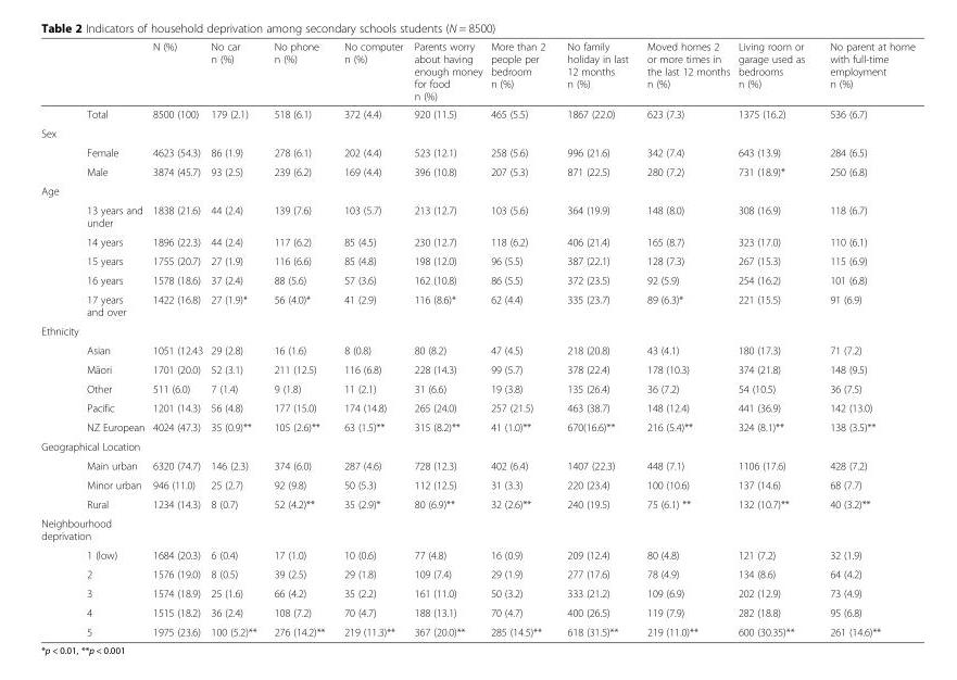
<table><thead><tr><td></td><td></td><td>N (%)</td><td>No car n (%)</td><td>No phone n (%)</td><td>No computer n (%)</td><td>Parents worry about having enough money for food n (%)</td><td>More than 2 people per bedroom n (%)</td><td>No family holiday in last 12 months n (%)</td><td>Moved homes 2 or more times in the last 12 months n (%)</td><td>Living room or garage used as bedrooms n (%)</td><td>No parent at home with full-time employment n (%)</td></tr></thead><tbody><tr><td></td><td>Total</td><td>8500 (100)</td><td>179 (2.1)</td><td>518 (6.1)</td><td>372 (4.4)</td><td>920 (11.5)</td><td>465 (5.5)</td><td>1867 (22.0)</td><td>623 (7.3)</td><td>1375 (16.2)</td><td>536 (6.7)</td></tr><tr><td colspan="12">Sex</td></tr><tr><td></td><td>Female</td><td>4623 (54.3)</td><td>86 (1.9)</td><td>278 (6.1)</td><td>202 (4.4)</td><td>523 (12.1)</td><td>258 (5.6)</td><td>996 (21.6)</td><td>342 (7.4)</td><td>643 (13.9)</td><td>284 (6.5)</td></tr><tr><td></td><td>Male</td><td>3874 (45.7)</td><td>93 (2.5)</td><td>239 (6.2)</td><td>169 (4.4)</td><td>396 (10.8)</td><td>207 (5.3)</td><td>871 (22.5)</td><td>280 (7.2)</td><td>731 (18.9)*</td><td>250 (6.8)</td></tr><tr><td colspan="12">Age</td></tr><tr><td></td><td>13 years and under</td><td>1838 (21.6)</td><td>44 (2.4)</td><td>139 (7.6)</td><td>103 (5.7)</td><td>213 (12.7)</td><td>103 (5.6)</td><td>364 (19.9)</td><td>148 (8.0)</td><td>308 (16.9)</td><td>118 (6.7)</td></tr><tr><td></td><td>14 years</td><td>1896 (22.3)</td><td>44 (2.4)</td><td>117 (6.2)</td><td>85 (4.5)</td><td>230 (12.7)</td><td>118 (6.2)</td><td>406 (21.4)</td><td>165 (8.7)</td><td>323 (17.0)</td><td>110 (6.1)</td></tr><tr><td></td><td>15 years</td><td>1755 (20.7)</td><td>27 (1.9)</td><td>116 (6.6)</td><td>85 (4.8)</td><td>198 (12.0)</td><td>96 (5.5)</td><td>387 (22.1)</td><td>128 (7.3)</td><td>267 (15.3)</td><td>115 (6.9)</td></tr><tr><td></td><td>16 years</td><td>1578 (18.6)</td><td>37 (2.4)</td><td>88 (5.6)</td><td>57 (3.6)</td><td>162 (10.8)</td><td>86 (5.5)</td><td>372 (23.5)</td><td>92 (5.9)</td><td>254 (16.2)</td><td>101 (6.8)</td></tr><tr><td></td><td>17 years and over</td><td>1422 (16.8)</td><td>27 (1.9)*</td><td>56 (4.0)*</td><td>41 (2.9)</td><td>116 (8.6)*</td><td>62 (4.4)</td><td>335 (23.7)</td><td>89 (6.3)*</td><td>221 (15.5)</td><td>91 (6.9)</td></tr><tr><td colspan="12">Ethnicity</td></tr><tr><td></td><td>Asian</td><td>1051 (12.43</td><td>29 (2.8)</td><td>16 (1.6)</td><td>8 (0.8)</td><td>80 (8.2)</td><td>47 (4.5)</td><td>218 (20.8)</td><td>43 (4.1)</td><td>180 (17.3)</td><td>71 (7.2)</td></tr><tr><td></td><td>Māori</td><td>1701 (20.0)</td><td>52 (3.1)</td><td>211 (12.5)</td><td>116 (6.8)</td><td>228 (14.3)</td><td>99 (5.7)</td><td>378 (22.4)</td><td>178 (10.3)</td><td>374 (21.8)</td><td>148 (9.5)</td></tr><tr><td></td><td>Other</td><td>511 (6.0)</td><td>7 (1.4)</td><td>9 (1.8)</td><td>11 (2.1)</td><td>31 (6.6)</td><td>19 (3.8)</td><td>135 (26.4)</td><td>36 (7.2)</td><td>54 (10.5)</td><td>36 (7.5)</td></tr><tr><td></td><td>Pacific</td><td>1201 (14.3)</td><td>56 (4.8)</td><td>177 (15.0)</td><td>174 (14.8)</td><td>265 (24.0)</td><td>257 (21.5)</td><td>463 (38.7)</td><td>148 (12.4)</td><td>441 (36.9)</td><td>142 (13.0)</td></tr><tr><td></td><td>NZ European</td><td>4024 (47.3)</td><td>35 (0.9)**</td><td>105 (2.6)**</td><td>63 (1.5)**</td><td>315 (8.2)**</td><td>41 (1.0)**</td><td>670(16.6)**</td><td>216 (5.4)**</td><td>324 (8.1)**</td><td>138 (3.5)**</td></tr><tr><td colspan="12">Geographical Location</td></tr><tr><td></td><td>Main urban</td><td>6320 (74.7)</td><td>146 (2.3)</td><td>374 (6.0)</td><td>287 (4.6)</td><td>728 (12.3)</td><td>402 (6.4)</td><td>1407 (22.3)</td><td>448 (7.1)</td><td>1106 (17.6)</td><td>428 (7.2)</td></tr><tr><td></td><td>Minor urban</td><td>946 (11.0)</td><td>25 (2.7)</td><td>92 (9.8)</td><td>50 (5.3)</td><td>112 (12.5)</td><td>31 (3.3)</td><td>220 (23.4)</td><td>100 (10.6)</td><td>137 (14.6)</td><td>68 (7.7)</td></tr><tr><td></td><td>Rural</td><td>1234 (14.3)</td><td>8 (0.7)</td><td>52 (4.2)**</td><td>35 (2.9)*</td><td>80 (6.9)**</td><td>32 (2.6)**</td><td>240 (19.5)</td><td>75 (6.1) **</td><td>132 (10.7)**</td><td>40 (3.2)**</td></tr><tr><td colspan="12">Neighbourhood deprivation</td></tr><tr><td></td><td>1 (low)</td><td>1684 (20.3)</td><td>6 (0.4)</td><td>17 (1.0)</td><td>10 (0.6)</td><td>77 (4.8)</td><td>16 (0.9)</td><td>209 (12.4)</td><td>80 (4.8)</td><td>121 (7.2)</td><td>32 (1.9)</td></tr><tr><td></td><td>2</td><td>1576 (19.0)</td><td>8 (0.5)</td><td>39 (2.5)</td><td>29 (1.8)</td><td>109 (7.4)</td><td>29 (1.9)</td><td>277 (17.6)</td><td>78 (4.9)</td><td>134 (8.6)</td><td>64 (4.2)</td></tr><tr><td></td><td>3</td><td>1574 (18.9)</td><td>25 (1.6)</td><td>66 (4.2)</td><td>35 (2.2)</td><td>161 (11.0)</td><td>50 (3.2)</td><td>333 (21.2)</td><td>109 (6.9)</td><td>202 (12.9)</td><td>73 (4.9)</td></tr><tr><td></td><td>4</td><td>1515 (18.2)</td><td>36 (2.4)</td><td>108 (7.2)</td><td>70 (4.7)</td><td>188 (13.1)</td><td>70 (4.7)</td><td>400 (26.5)</td><td>119 (7.9)</td><td>282 (18.8)</td><td>95 (6.8)</td></tr><tr><td></td><td>5</td><td>1975 (23.6)</td><td>100 (5.2)**</td><td>276 (14.2)**</td><td>219 (11.3)**</td><td>367 (20.0)**</td><td>285 (14.5)**</td><td>618 (31.5)**</td><td>219 (11.0)**</td><td>600 (30.35)**</td><td>261 (14.6)**</td></tr></tbody></table>